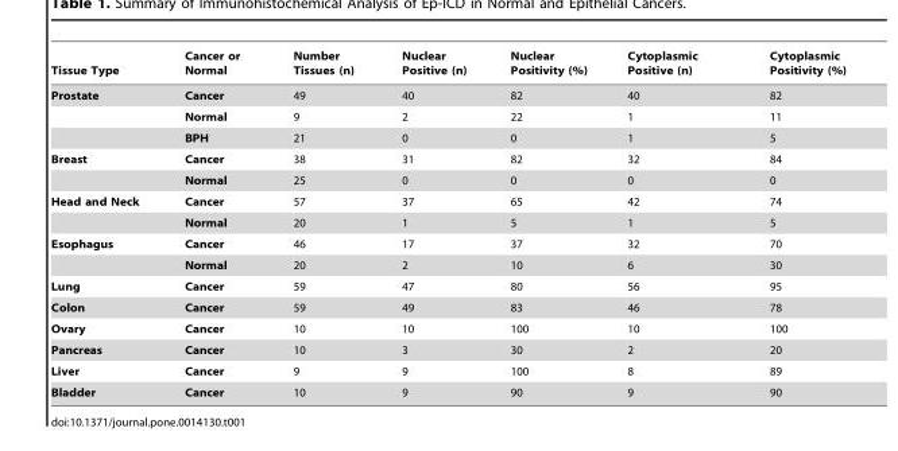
<table><thead><tr><td>Tissue Type</td><td>Cancer or Normal</td><td>Number Tissues (n)</td><td>Nuclear Positive (n)</td><td>Nuclear Positivity (%)</td><td>Cytoplasmic Positive (n)</td><td>Cytoplasmic Positivity (%)</td></tr></thead><tbody><tr><td rowspan="3">Prostate</td><td>Cancer</td><td>49</td><td>40</td><td>82</td><td>40</td><td>82</td></tr><tr><td>Normal</td><td>9</td><td>2</td><td>22</td><td>1</td><td>11</td></tr><tr><td>BPH</td><td>21</td><td>0</td><td>0</td><td>1</td><td>5</td></tr><tr><td rowspan="2">Breast</td><td>Cancer</td><td>38</td><td>31</td><td>82</td><td>32</td><td>84</td></tr><tr><td>Normal</td><td>25</td><td>0</td><td>0</td><td>0</td><td>0</td></tr><tr><td rowspan="2">Head and Neck</td><td>Cancer</td><td>57</td><td>37</td><td>65</td><td>42</td><td>74</td></tr><tr><td>Normal</td><td>20</td><td>1</td><td>5</td><td>1</td><td>5</td></tr><tr><td rowspan="2">Esophagus</td><td>Cancer</td><td>46</td><td>17</td><td>37</td><td>32</td><td>70</td></tr><tr><td>Normal</td><td>20</td><td>2</td><td>10</td><td>6</td><td>30</td></tr><tr><td>Lung</td><td>Cancer</td><td>59</td><td>47</td><td>80</td><td>56</td><td>95</td></tr><tr><td>Colon</td><td>Cancer</td><td>59</td><td>49</td><td>83</td><td>46</td><td>78</td></tr><tr><td>Ovary</td><td>Cancer</td><td>10</td><td>10</td><td>100</td><td>10</td><td>100</td></tr><tr><td>Pancreas</td><td>Cancer</td><td>10</td><td>3</td><td>30</td><td>2</td><td>20</td></tr><tr><td>Liver</td><td>Cancer</td><td>9</td><td>9</td><td>100</td><td>8</td><td>89</td></tr><tr><td>Bladder</td><td>Cancer</td><td>10</td><td>9</td><td>90</td><td>9</td><td>90</td></tr></tbody></table>